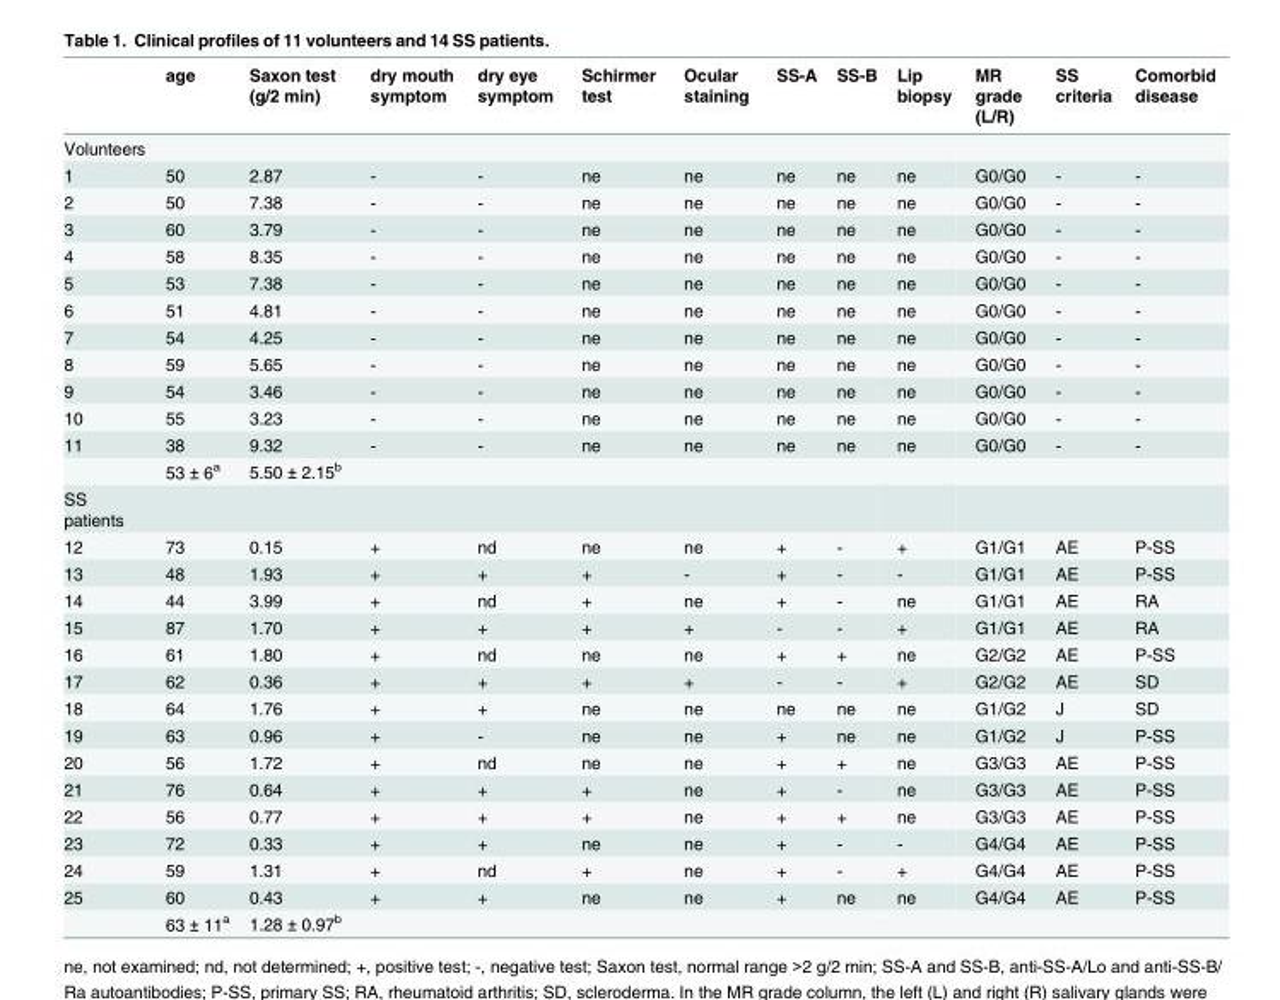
<table><thead><tr><td></td><td>age</td><td>Saxon test (g/2 min)</td><td>dry mouth symptom</td><td>dry eye symptom</td><td>Schirmer test</td><td>Ocular staining</td><td>SS-A</td><td>SS-B</td><td>Lip biopsy</td><td>MR grade (L/R)</td><td>SS criteria</td><td>Comorbid disease</td></tr></thead><tbody><tr><td colspan="13">Volunteers</td></tr><tr><td>1</td><td>50</td><td>2.87</td><td>-</td><td>-</td><td>ne</td><td>ne</td><td>ne</td><td>ne</td><td>ne</td><td>G0/G0</td><td>-</td><td>-</td></tr><tr><td>2</td><td>50</td><td>7.38</td><td>-</td><td>-</td><td>ne</td><td>ne</td><td>ne</td><td>ne</td><td>ne</td><td>G0/G0</td><td>-</td><td>-</td></tr><tr><td>3</td><td>60</td><td>3.79</td><td>-</td><td>-</td><td>ne</td><td>ne</td><td>ne</td><td>ne</td><td>ne</td><td>G0/G0</td><td>-</td><td>-</td></tr><tr><td>4</td><td>58</td><td>8.35</td><td>-</td><td>-</td><td>ne</td><td>ne</td><td>ne</td><td>ne</td><td>ne</td><td>G0/G0</td><td>-</td><td>-</td></tr><tr><td>5</td><td>53</td><td>7.38</td><td>-</td><td>-</td><td>ne</td><td>ne</td><td>ne</td><td>ne</td><td>ne</td><td>G0/G0</td><td>-</td><td>-</td></tr><tr><td>6</td><td>51</td><td>4.81</td><td>-</td><td>-</td><td>ne</td><td>ne</td><td>ne</td><td>ne</td><td>ne</td><td>G0/G0</td><td>-</td><td>-</td></tr><tr><td>7</td><td>54</td><td>4.25</td><td>-</td><td>-</td><td>ne</td><td>ne</td><td>ne</td><td>ne</td><td>ne</td><td>G0/G0</td><td>-</td><td>-</td></tr><tr><td>8</td><td>59</td><td>5.65</td><td>-</td><td>-</td><td>ne</td><td>ne</td><td>ne</td><td>ne</td><td>ne</td><td>G0/G0</td><td>-</td><td>-</td></tr><tr><td>9</td><td>54</td><td>3.46</td><td>-</td><td>-</td><td>ne</td><td>ne</td><td>ne</td><td>ne</td><td>ne</td><td>G0/G0</td><td>-</td><td>-</td></tr><tr><td>10</td><td>55</td><td>3.23</td><td>-</td><td>-</td><td>ne</td><td>ne</td><td>ne</td><td>ne</td><td>ne</td><td>G0/G0</td><td>-</td><td>-</td></tr><tr><td rowspan="2">11</td><td>38</td><td>9.32</td><td>-</td><td>-</td><td>ne</td><td>ne</td><td>ne</td><td>ne</td><td>ne</td><td>G0/G0</td><td>-</td><td>-</td></tr><tr><td>53 ± 6<sup>a</sup></td><td>5.50 ± 2.15<sup>b</sup></td><td></td><td></td><td></td><td></td><td></td><td></td><td></td><td></td><td></td><td></td></tr><tr><td colspan="13">SS patients</td></tr><tr><td>12</td><td>73</td><td>0.15</td><td>+</td><td>nd</td><td>ne</td><td>ne</td><td>+</td><td>-</td><td>+</td><td>G1/G1</td><td>AE</td><td>P-SS</td></tr><tr><td>13</td><td>48</td><td>1.93</td><td>+</td><td>+</td><td>+</td><td>-</td><td>+</td><td>-</td><td>-</td><td>G1/G1</td><td>AE</td><td>P-SS</td></tr><tr><td>14</td><td>44</td><td>3.99</td><td>+</td><td>nd</td><td>+</td><td>ne</td><td>+</td><td>-</td><td>ne</td><td>G1/G1</td><td>AE</td><td>RA</td></tr><tr><td>15</td><td>87</td><td>1.70</td><td>+</td><td>+</td><td>+</td><td>+</td><td>-</td><td>-</td><td>+</td><td>G1/G1</td><td>AE</td><td>RA</td></tr><tr><td>16</td><td>61</td><td>1.80</td><td>+</td><td>nd</td><td>ne</td><td>ne</td><td>+</td><td>+</td><td>ne</td><td>G2/G2</td><td>AE</td><td>P-SS</td></tr><tr><td>17</td><td>62</td><td>0.36</td><td>+</td><td>+</td><td>+</td><td>+</td><td>-</td><td>-</td><td>+</td><td>G2/G2</td><td>AE</td><td>SD</td></tr><tr><td>18</td><td>64</td><td>1.76</td><td>+</td><td>+</td><td>ne</td><td>ne</td><td>ne</td><td>ne</td><td>ne</td><td>G1/G2</td><td>J</td><td>SD</td></tr><tr><td>19</td><td>63</td><td>0.96</td><td>+</td><td>-</td><td>ne</td><td>ne</td><td>+</td><td>ne</td><td>ne</td><td>G1/G2</td><td>J</td><td>P-SS</td></tr><tr><td>20</td><td>56</td><td>1.72</td><td>+</td><td>nd</td><td>ne</td><td>ne</td><td>+</td><td>+</td><td>ne</td><td>G3/G3</td><td>AE</td><td>P-SS</td></tr><tr><td>21</td><td>76</td><td>0.64</td><td>+</td><td>+</td><td>+</td><td>ne</td><td>+</td><td>-</td><td>ne</td><td>G3/G3</td><td>AE</td><td>P-SS</td></tr><tr><td>22</td><td>56</td><td>0.77</td><td>+</td><td>+</td><td>+</td><td>ne</td><td>+</td><td>+</td><td>ne</td><td>G3/G3</td><td>AE</td><td>P-SS</td></tr><tr><td>23</td><td>72</td><td>0.33</td><td>+</td><td>+</td><td>ne</td><td>ne</td><td>+</td><td>-</td><td>-</td><td>G4/G4</td><td>AE</td><td>P-SS</td></tr><tr><td>24</td><td>59</td><td>1.31</td><td>+</td><td>nd</td><td>+</td><td>ne</td><td>+</td><td>-</td><td>+</td><td>G4/G4</td><td>AE</td><td>P-SS</td></tr><tr><td rowspan="2">25</td><td>60</td><td>0.43</td><td>+</td><td>+</td><td>ne</td><td>ne</td><td>+</td><td>ne</td><td>ne</td><td>G4/G4</td><td>AE</td><td>P-SS</td></tr><tr><td>63 ± 11<sup>a</sup></td><td>1.28 ± 0.97<sup>b</sup></td><td></td><td></td><td></td><td></td><td></td><td></td><td></td><td></td><td></td><td></td></tr></tbody></table>